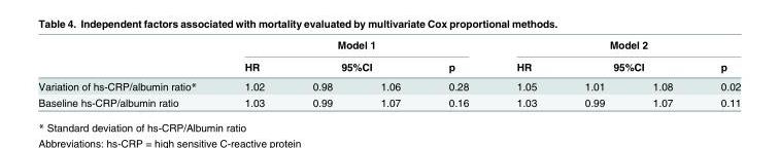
<table><thead><tr><td rowspan="3">Variation of hs-CRP/albumin ratio*</td><td colspan="4">Model 1</td><td colspan="4">Model 2</td></tr><tr><td rowspan="2">HR 1.02</td><td colspan="2">95%CI</td><td rowspan="2">p 0.28</td><td rowspan="2">HR 1.05</td><td colspan="2">95%CI</td><td rowspan="2">p 0.02</td></tr><tr><td>0.98</td><td>1.06</td><td>1.01</td><td>1.08</td></tr></thead><tbody><tr><td>Baseline hs-CRP/albumin ratio</td><td>1.03</td><td>0.99</td><td>1.07</td><td>0.16</td><td>1.03</td><td>0.99</td><td>1.07</td><td>0.11</td></tr></tbody></table>